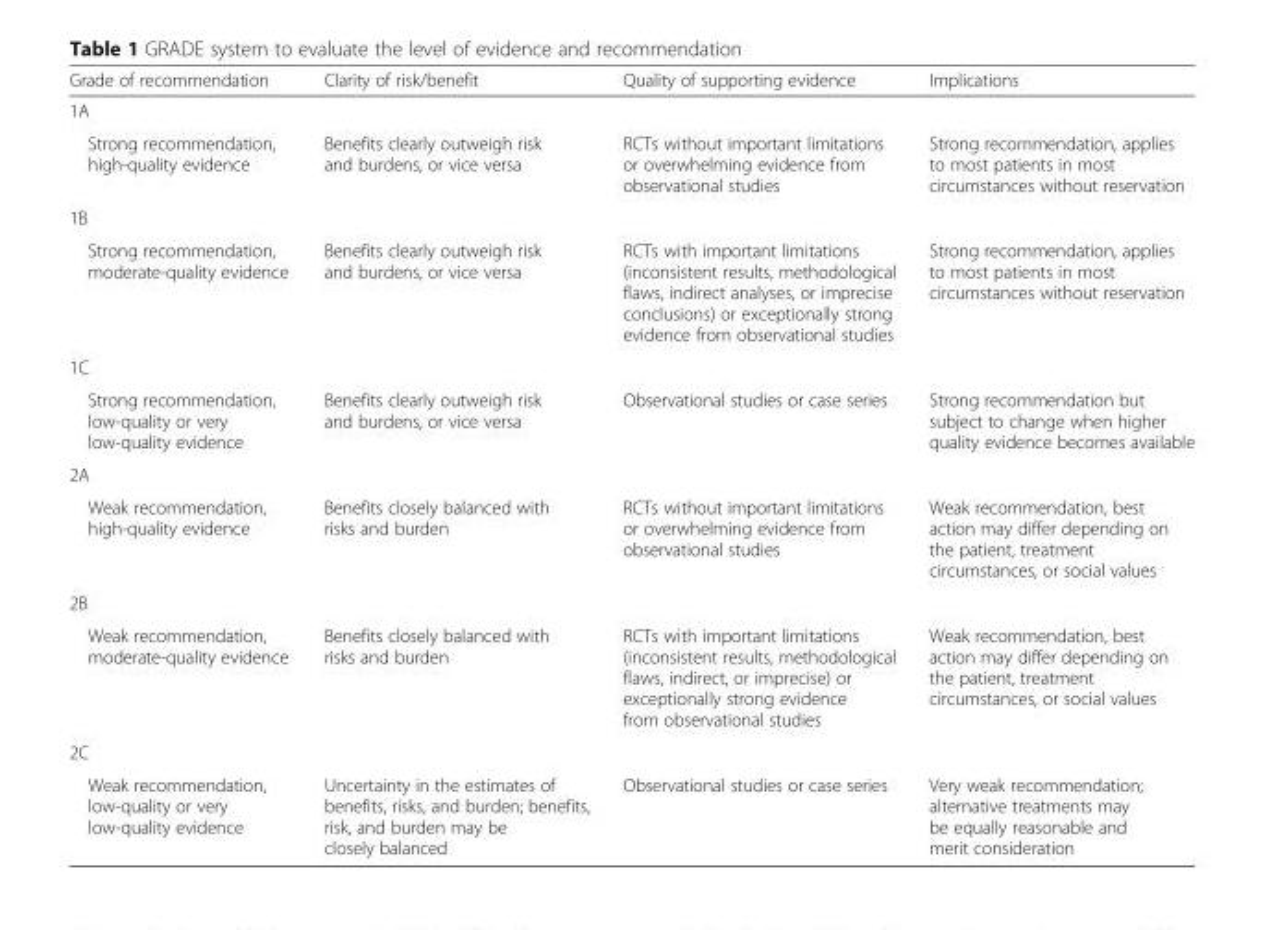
<table><thead><tr><td>Grade of recommendation</td><td>Clarity of risk/benefit</td><td>Quality of supporting evidence</td><td>Implications</td></tr></thead><tbody><tr><td colspan="4">1A</td></tr><tr><td>Strong recommendation, high-quality evidence</td><td>Benefits clearly outweigh risk and burdens, or vice versa</td><td>RCTs without important limitations or overwhelming evidence from observational studies</td><td>Strong recommendation, applies to most patients in most circumstances without reservation</td></tr><tr><td colspan="4">1B</td></tr><tr><td>Strong recommendation, moderate-quality evidence</td><td>Benefits clearly outweigh risk and burdens, or vice versa</td><td>RCTs with important limitations (inconsistent results, methodological flaws, indirect analyses, or imprecise conclusions) or exceptionally strong evidence from observational studies</td><td>Strong recommendation, applies to most patients in most circumstances without reservation</td></tr><tr><td colspan="4">1C</td></tr><tr><td>Strong recommendation, low-quality or very low-quality evidence</td><td>Benefits clearly outweigh risk and burdens, or vice versa</td><td>Observational studies or case series</td><td>Strong recommendation but subject to change when higher quality evidence becomes available</td></tr><tr><td colspan="4">2A</td></tr><tr><td>Weak recommendation, high-quality evidence</td><td>Benefits closely balanced with risks and burden</td><td>RCTs without important limitations or overwhelming evidence from observational studies</td><td>Weak recommendation, best action may differ depending on the patient, treatment circumstances, or social values</td></tr><tr><td colspan="4">2B</td></tr><tr><td>Weak recommendation, moderate-quality evidence</td><td>Benefits closely balanced with risks and burden</td><td>RCTs with important limitations (inconsistent results, methodological flaws, indirect, or imprecise) or exceptionally strong evidence from observational studies</td><td>Weak recommendation, best action may differ depending on the patient, treatment circumstances, or social values</td></tr><tr><td colspan="4">2C</td></tr><tr><td>Weak recommendation, low-quality or very low-quality evidence</td><td>Uncertainty in the estimates of benefits, risks, and burden; benefits, risk, and burden may be closely balanced</td><td>Observational studies or case series</td><td>Very weak recommendation; alternative treatments may be equally reasonable and merit consideration</td></tr></tbody></table>